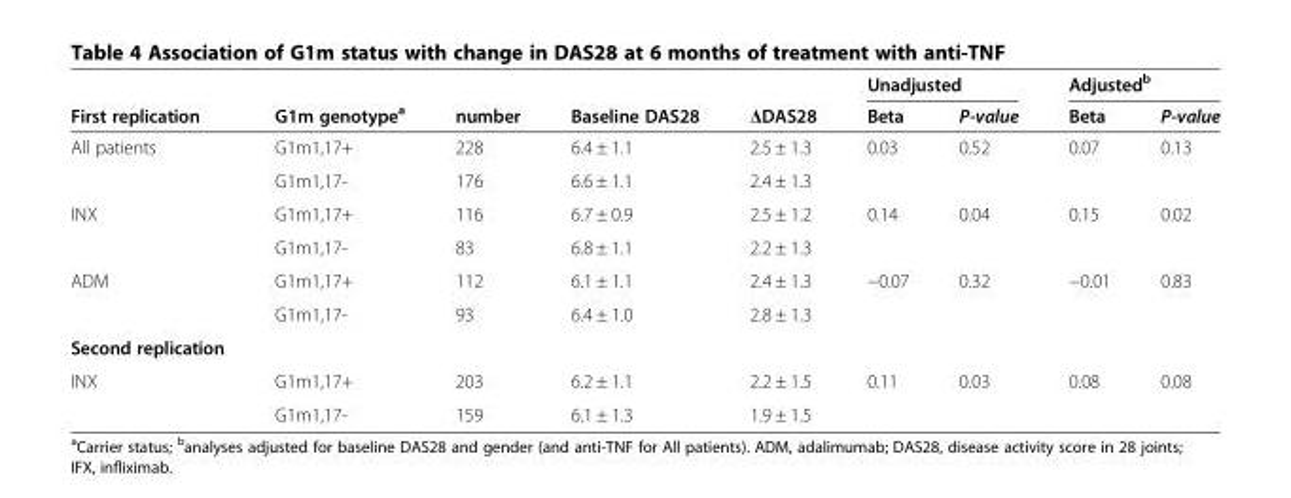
<table><thead><tr><td rowspan="2">First replication</td><td rowspan="2">G1m genotype<sup>a</sup></td><td rowspan="2">number</td><td rowspan="2">Baseline DAS28</td><td rowspan="2">ΔDAS28</td><td colspan="2">Unadjusted</td><td colspan="2">Adjusted<sup>b</sup></td></tr><tr><td>Beta</td><td>P-value</td><td>Beta</td><td>P-value</td></tr></thead><tbody><tr><td rowspan="2">All patients</td><td>G1m1,17+</td><td>228</td><td>6.4 ± 1.1</td><td>2.5 ± 1.3</td><td>0.03</td><td>0.52</td><td>0.07</td><td>0.13</td></tr><tr><td>G1m1,17-</td><td>176</td><td>6.6 ± 1.1</td><td>2.4 ± 1.3</td><td></td><td></td><td></td><td></td></tr><tr><td rowspan="2">INX</td><td>G1m1,17+</td><td>116</td><td>6.7 ± 0.9</td><td>2.5 ± 1.2</td><td>0.14</td><td>0.04</td><td>0.15</td><td>0.02</td></tr><tr><td>G1m1,17-</td><td>83</td><td>6.8 ± 1.1</td><td>2.2 ± 1.3</td><td></td><td></td><td></td><td></td></tr><tr><td rowspan="2">ADM</td><td>G1m1,17+</td><td>112</td><td>6.1 ± 1.1</td><td>2.4 ± 1.3</td><td>−0.07</td><td>0.32</td><td>−0.01</td><td>0.83</td></tr><tr><td>G1m1,17-</td><td>93</td><td>6.4 ± 1.0</td><td>2.8 ± 1.3</td><td></td><td></td><td></td><td></td></tr><tr><td colspan="9">Second replication</td></tr><tr><td rowspan="2">INX</td><td>G1m1,17+</td><td>203</td><td>6.2 ± 1.1</td><td>2.2 ± 1.5</td><td>0.11</td><td>0.03</td><td>0.08</td><td>0.08</td></tr><tr><td>G1m1,17-</td><td>159</td><td>6.1 ± 1.3</td><td>1.9 ± 1.5</td><td></td><td></td><td></td><td></td></tr></tbody></table>